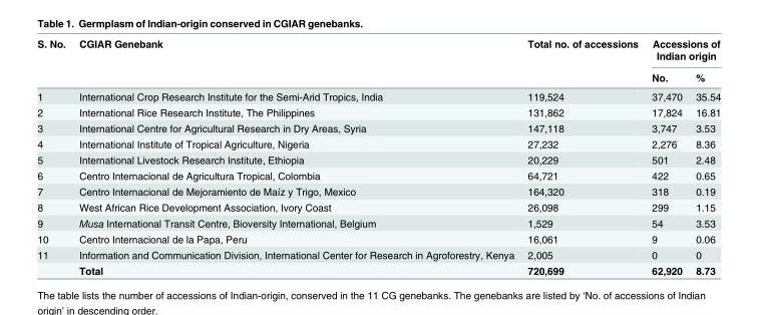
<table><thead><tr><td rowspan="2">S. No.</td><td rowspan="2">CGIAR Genebank</td><td rowspan="2">Total no. of accessions</td><td colspan="2">Accessions of Indian origin</td></tr><tr><td>No.</td><td>%</td></tr></thead><tbody><tr><td>1</td><td>International Crop Research Institute for the Semi-Arid Tropics, India</td><td>119,524</td><td>37,470</td><td>35.54</td></tr><tr><td>2</td><td>International Rice Research Institute, The Philippines</td><td>131,862</td><td>17,824</td><td>16.81</td></tr><tr><td>3</td><td>International Centre for Agricultural Research in Dry Areas, Syria</td><td>147,118</td><td>3,747</td><td>3.53</td></tr><tr><td>4</td><td>International Institute of Tropical Agriculture, Nigeria</td><td>27,232</td><td>2,276</td><td>8.36</td></tr><tr><td>5</td><td>International Livestock Research Institute, Ethiopia</td><td>20,229</td><td>501</td><td>2.48</td></tr><tr><td>6</td><td>Centro Internacional de Agricultura Tropical, Colombia</td><td>64,721</td><td>422</td><td>0.65</td></tr><tr><td>7</td><td>Centro Internacional de Mejoramiento de Maíz y Trigo, Mexico</td><td>164,320</td><td>318</td><td>0.19</td></tr><tr><td>8</td><td>West African Rice Development Association, Ivory Coast</td><td>26,098</td><td>299</td><td>1.15</td></tr><tr><td>9</td><td>Musa International Transit Centre, Bioversity International, Belgium</td><td>1,529</td><td>54</td><td>3.53</td></tr><tr><td>10</td><td>Centro Internacional de la Papa, Peru</td><td>16,061</td><td>9</td><td>0.06</td></tr><tr><td rowspan="2">11</td><td>Information and Communication Division, International Center for Research in Agroforestry, Kenya</td><td>2,005</td><td>0</td><td>0</td></tr><tr><td>Total</td><td>720,699</td><td>62,920</td><td>8.73</td></tr></tbody></table>